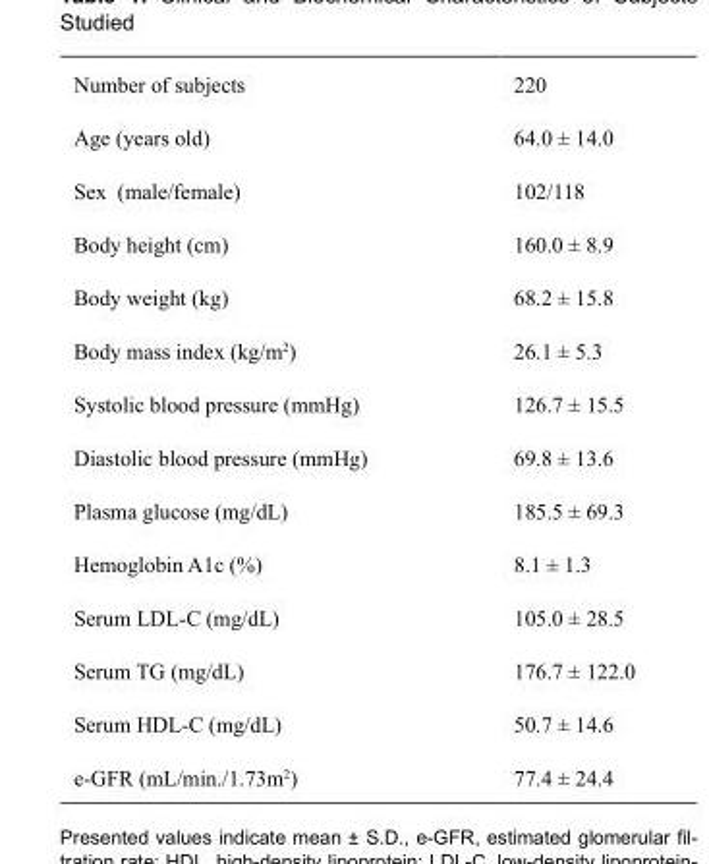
<table><tbody><tr><td>Number of subjects</td><td>220</td></tr><tr><td>Age (years old)</td><td>64.0 ± 14.0</td></tr><tr><td>Sex (male/female)</td><td>102/118</td></tr><tr><td>Body height (cm)</td><td>160.0 ± 8.9</td></tr><tr><td>Body weight (kg)</td><td>68.2 ± 15.8</td></tr><tr><td>Body mass index (kg/m<sup>2</sup>)</td><td>26.1 ± 5.3</td></tr><tr><td>Systolic blood pressure (mmHg)</td><td>126.7 ± 15.5</td></tr><tr><td>Diastolic blood pressure (mmHg)</td><td>69.8 ± 13.6</td></tr><tr><td>Plasma glucose (mg/dL)</td><td>185.5 ± 69.3</td></tr><tr><td>Hemoglobin A1c (%)</td><td>8.1 ± 1.3</td></tr><tr><td>Serum LDL-C (mg/dL)</td><td>105.0 ± 28.5</td></tr><tr><td>Serum TG (mg/dL)</td><td>176.7 ± 122.0</td></tr><tr><td>Serum HDL-C (mg/dL)</td><td>50.7 ± 14.6</td></tr><tr><td>e-GFR (mL/min./1.73m<sup>2</sup>)</td><td>77.4 ± 24.4</td></tr></tbody></table>